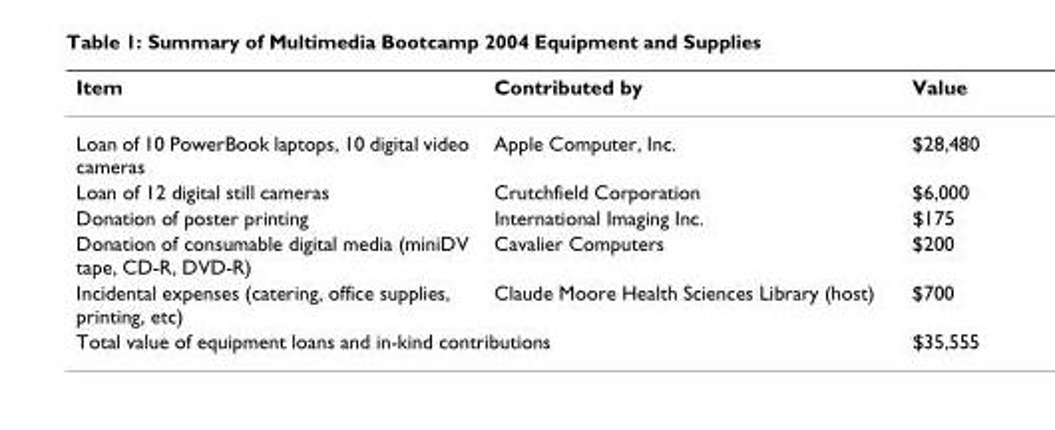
<table><thead><tr><td>Item</td><td>Contributed by</td><td>Value</td></tr></thead><tbody><tr><td>Loan of 10 PowerBook laptops, 10 digital video cameras</td><td>Apple Computer, Inc.</td><td>$28,480</td></tr><tr><td>Loan of 12 digital still cameras</td><td>Crutchfield Corporation</td><td>$6,000</td></tr><tr><td>Donation of poster printing</td><td>International Imaging Inc.</td><td>$175</td></tr><tr><td>Donation of consumable digital media (miniDV tape, CD-R, DVD-R)</td><td>Cavalier Computers</td><td>$200</td></tr><tr><td>Incidental expenses (catering, office supplies, printing, etc)</td><td>Claude Moore Health Sciences Library (host)</td><td>$700</td></tr><tr><td colspan="2">Total value of equipment loans and in-kind contributions</td><td>$35,555</td></tr></tbody></table>